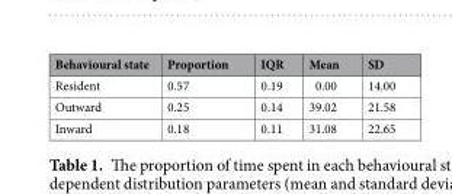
<table><thead><tr><td>Behavioural state</td><td>Proportion</td><td>IQR</td><td>Mean</td><td>SD</td></tr></thead><tbody><tr><td>Resident</td><td>0.57</td><td>0.19</td><td>0.00</td><td>14.00</td></tr><tr><td>Outward</td><td>0.25</td><td>0.14</td><td>39.02</td><td>21.58</td></tr><tr><td>Inward</td><td>0.18</td><td>0.11</td><td>31.08</td><td>22.65</td></tr></tbody></table>